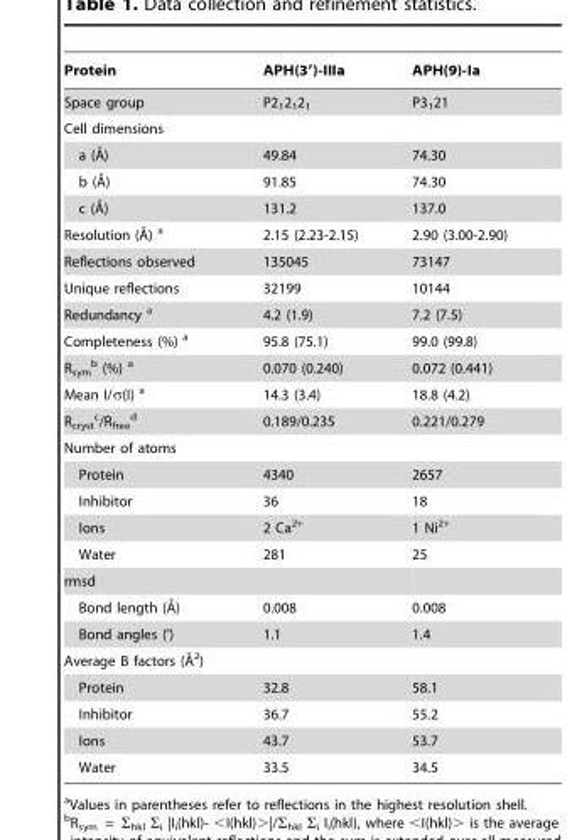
<table><thead><tr><td>Protein</td><td>APH(3′)-IIIa</td><td>APH(9)-Ia</td></tr></thead><tbody><tr><td>Space group</td><td>P2<sub>1</sub>2<sub>1</sub>2<sub>1</sub></td><td>P3<sub>1</sub>21</td></tr><tr><td colspan="3">Cell dimensions</td></tr><tr><td>a (A˚)</td><td>49.84</td><td>74.30</td></tr><tr><td>b (A˚)</td><td>91.85</td><td>74.30</td></tr><tr><td>c (A˚)</td><td>131.2</td><td>137.0</td></tr><tr><td>Resolution (A˚) a</td><td>2.15 (2.23-2.15)</td><td>2.90 (3.00-2.90)</td></tr><tr><td>Reflections observed</td><td>135045</td><td>73147</td></tr><tr><td>Unique reflections</td><td>32199</td><td>10144</td></tr><tr><td>Redundancy a</td><td>4.2 (1.9)</td><td>7.2 (7.5)</td></tr><tr><td>Completeness (%) a</td><td>95.8 (75.1)</td><td>99.0 (99.8)</td></tr><tr><td>R<sub>sym</sub> b (%) a</td><td>0.070 (0.240)</td><td>0.072 (0.441)</td></tr><tr><td>Mean I/σ(I) a</td><td>14.3 (3.4)</td><td>18.8 (4.2)</td></tr><tr><td>R<sub>cryst</sub> c/R<sub>free</sub> d</td><td>0.189/0.235</td><td>0.221/0.279</td></tr><tr><td colspan="3">Number of atoms</td></tr><tr><td>Protein</td><td>4340</td><td>2657</td></tr><tr><td>Inhibitor</td><td>36</td><td>18</td></tr><tr><td>Ions</td><td>2 Ca<sup>2+</sup></td><td>1 Ni<sup>2+</sup></td></tr><tr><td>Water</td><td>281</td><td>25</td></tr><tr><td colspan="3">rmsd</td></tr><tr><td>Bond length (A˚)</td><td>0.008</td><td>0.008</td></tr><tr><td>Bond angles (˚)</td><td>1.1</td><td>1.4</td></tr><tr><td colspan="3">Average B factors (A˚ 2)</td></tr><tr><td>Protein</td><td>32.8</td><td>58.1</td></tr><tr><td>Inhibitor</td><td>36.7</td><td>55.2</td></tr><tr><td>Ions</td><td>43.7</td><td>53.7</td></tr><tr><td>Water</td><td>33.5</td><td>34.5</td></tr></tbody></table>